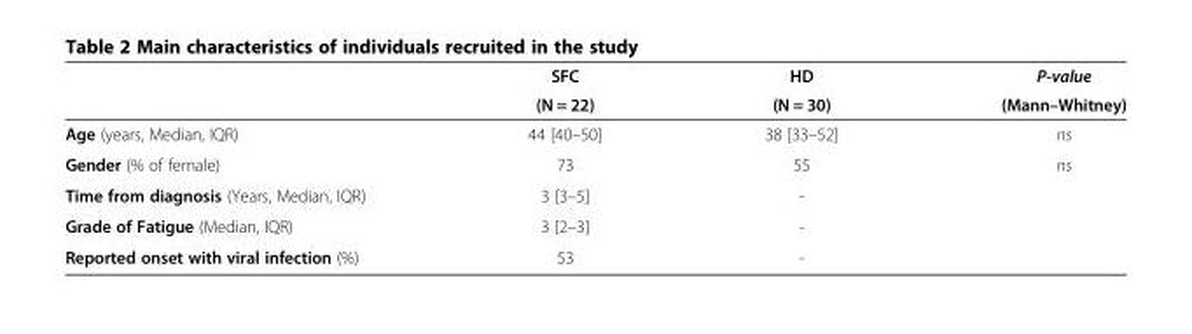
<table><thead><tr><td rowspan="2"></td><td rowspan="2">SFC (N = 22)</td><td rowspan="2">HD (N = 30)</td><td rowspan="2">P-value (Mann–Whitney)</td></tr><tr></tr></thead><tbody><tr><td>Age (years, Median, IQR)</td><td>44 [40–50]</td><td>38 [33–52]</td><td>ns</td></tr><tr><td>Gender (% of female)</td><td>73</td><td>55</td><td>ns</td></tr><tr><td>Time from diagnosis (Years, Median, IQR)</td><td>3 [3–5]</td><td>-</td><td></td></tr><tr><td>Grade of Fatigue (Median, IQR)</td><td>3 [2–3]</td><td>-</td><td></td></tr><tr><td>Reported onset with viral infection (%)</td><td>53</td><td>-</td><td></td></tr></tbody></table>